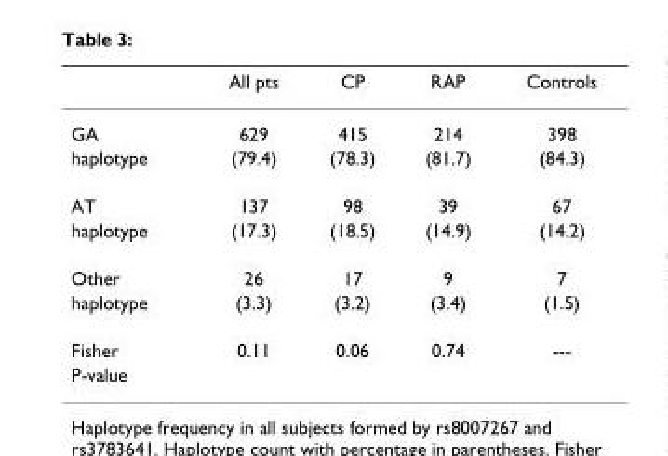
<table><thead><tr><td></td><td>All pts</td><td>CP</td><td>RAP</td><td>Controls</td></tr></thead><tbody><tr><td>GA</td><td>629</td><td>415</td><td>214</td><td>398</td></tr><tr><td>haplotype</td><td>(79.4)</td><td>(78.3)</td><td>(81.7)</td><td>(84.3)</td></tr><tr><td>AT</td><td>137</td><td>98</td><td>39</td><td>67</td></tr><tr><td>haplotype</td><td>(17.3)</td><td>(18.5)</td><td>(14.9)</td><td>(14.2)</td></tr><tr><td>Other</td><td>26</td><td>17</td><td>9</td><td>7</td></tr><tr><td>haplotype</td><td>(3.3)</td><td>(3.2)</td><td>(3.4)</td><td>(1.5)</td></tr><tr><td>Fisher</td><td>0.11</td><td>0.06</td><td>0.74</td><td>---</td></tr><tr><td>P-value</td><td></td><td></td><td></td><td></td></tr></tbody></table>